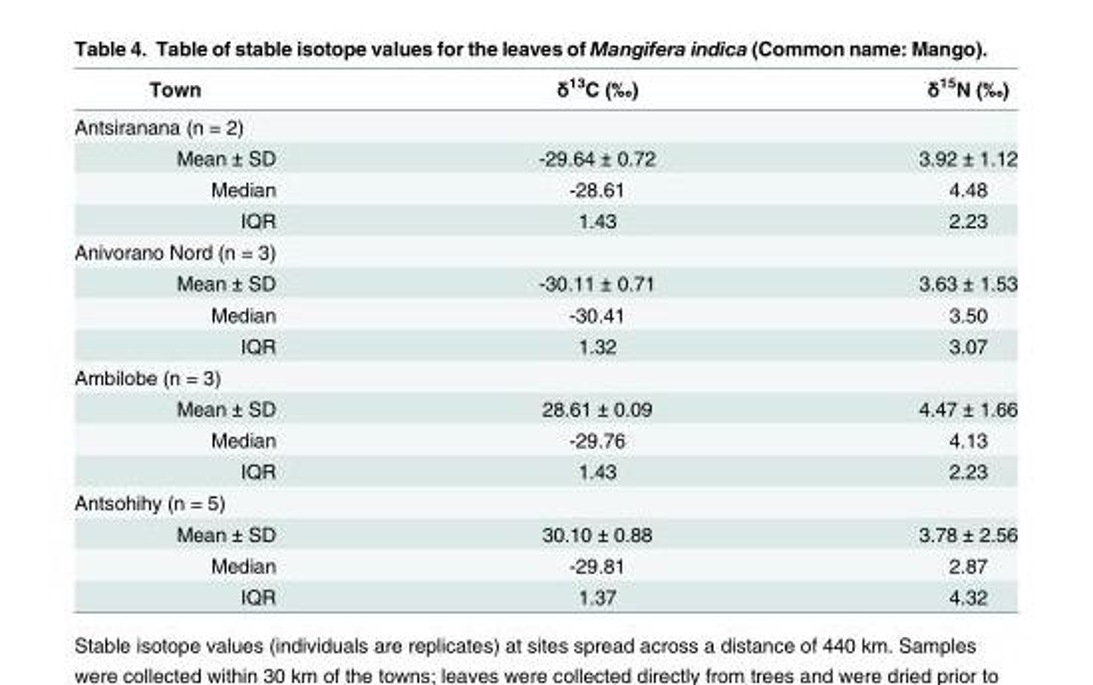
<table><thead><tr><td>Town</td><td>δ<sup>13</sup>C (‰)</td><td>δ<sup>15</sup>N (‰)</td></tr></thead><tbody><tr><td colspan="3">Antsiranana (n = 2)</td></tr><tr><td>Mean ± SD</td><td>-29.64 ± 0.72</td><td>3.92 ± 1.12</td></tr><tr><td>Median</td><td>-28.61</td><td>4.48</td></tr><tr><td>IQR</td><td>1.43</td><td>2.23</td></tr><tr><td colspan="3">Anivorano Nord (n = 3)</td></tr><tr><td>Mean ± SD</td><td>-30.11 ± 0.71</td><td>3.63 ± 1.53</td></tr><tr><td>Median</td><td>-30.41</td><td>3.50</td></tr><tr><td>IQR</td><td>1.32</td><td>3.07</td></tr><tr><td colspan="3">Ambilobe (n = 3)</td></tr><tr><td>Mean ± SD</td><td>28.61 ± 0.09</td><td>4.47 ± 1.66</td></tr><tr><td>Median</td><td>-29.76</td><td>4.13</td></tr><tr><td>IQR</td><td>1.43</td><td>2.23</td></tr><tr><td colspan="3">Antsohihy (n = 5)</td></tr><tr><td>Mean ± SD</td><td>30.10 ± 0.88</td><td>3.78 ± 2.56</td></tr><tr><td>Median</td><td>-29.81</td><td>2.87</td></tr><tr><td>IQR</td><td>1.37</td><td>4.32</td></tr></tbody></table>